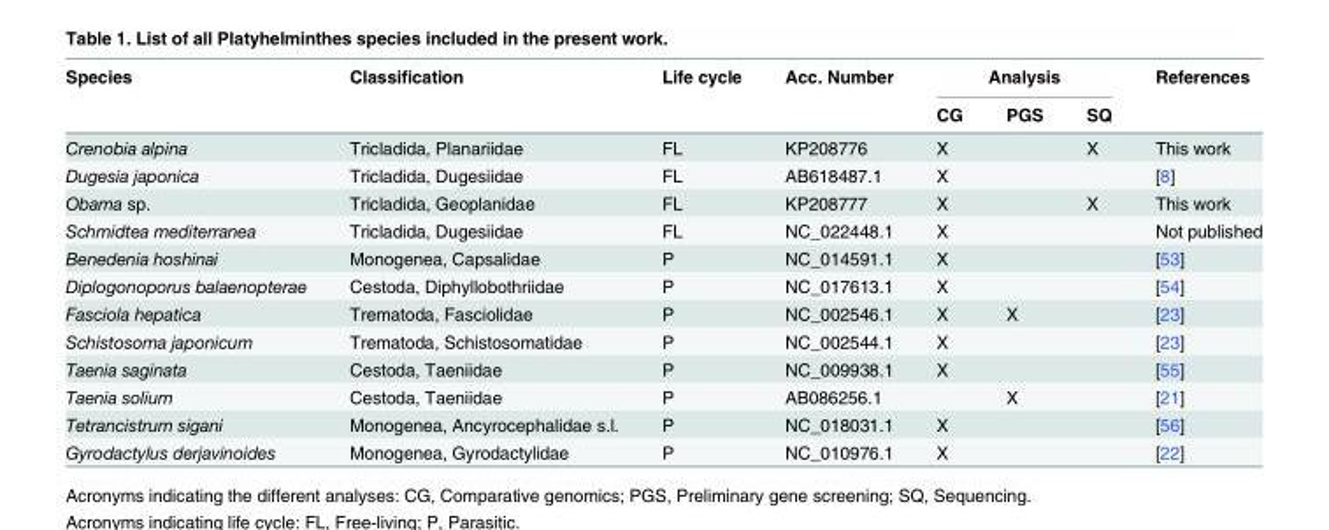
<table><thead><tr><td rowspan="2">Species</td><td rowspan="2">Classification</td><td rowspan="2">Life cycle</td><td rowspan="2">Acc. Number</td><td colspan="3">Analysis</td><td rowspan="2">References</td></tr><tr><td>CG</td><td>PGS</td><td>SQ</td></tr></thead><tbody><tr><td>Crenobia alpina</td><td>Tricladida, Planariidae</td><td>FL</td><td>KP208776</td><td>X</td><td></td><td>X</td><td>This work</td></tr><tr><td>Dugesia japonica</td><td>Tricladida, Dugesiidae</td><td>FL</td><td>AB618487.1</td><td>X</td><td></td><td></td><td>[8]</td></tr><tr><td>Obama sp.</td><td>Tricladida, Geoplanidae</td><td>FL</td><td>KP208777</td><td>X</td><td></td><td>X</td><td>This work</td></tr><tr><td>Schmidtea mediterranea</td><td>Tricladida, Dugesiidae</td><td>FL</td><td>NC_022448.1</td><td>X</td><td></td><td></td><td>Not published</td></tr><tr><td>Benedenia hoshinai</td><td>Monogenea, Capsalidae</td><td>P</td><td>NC_014591.1</td><td>X</td><td></td><td></td><td>[53]</td></tr><tr><td>Diplogonoporus balaenopterae</td><td>Cestoda, Diphyllobothriidae</td><td>P</td><td>NC_017613.1</td><td>X</td><td></td><td></td><td>[54]</td></tr><tr><td>Fasciola hepatica</td><td>Trematoda, Fasciolidae</td><td>P</td><td>NC_002546.1</td><td>X</td><td>X</td><td></td><td>[23]</td></tr><tr><td>Schistosoma japonicum</td><td>Trematoda, Schistosomatidae</td><td>P</td><td>NC_002544.1</td><td>X</td><td></td><td></td><td>[23]</td></tr><tr><td>Taenia saginata</td><td>Cestoda, Taeniidae</td><td>P</td><td>NC_009938.1</td><td>X</td><td></td><td></td><td>[55]</td></tr><tr><td>Taenia solium</td><td>Cestoda, Taeniidae</td><td>P</td><td>AB086256.1</td><td></td><td>X</td><td></td><td>[21]</td></tr><tr><td>Tetrancistrum sigani</td><td>Monogenea, Ancyrocephalidae s.l.</td><td>P</td><td>NC_018031.1</td><td>X</td><td></td><td></td><td>[56]</td></tr><tr><td>Gyrodactylus derjavinoides</td><td>Monogenea, Gyrodactylidae</td><td>P</td><td>NC_010976.1</td><td>X</td><td></td><td></td><td>[22]</td></tr></tbody></table>